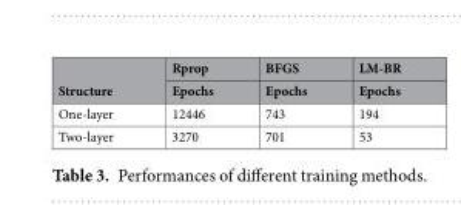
<table><thead><tr><td rowspan="2">Structure</td><td rowspan="2">Rprop Epochs</td><td rowspan="2">BFGS Epochs</td><td rowspan="2">LM-BR Epochs</td></tr><tr></tr></thead><tbody><tr><td>One-layer</td><td>12446</td><td>743</td><td>194</td></tr><tr><td>Two-layer</td><td>3270</td><td>701</td><td>53</td></tr></tbody></table>